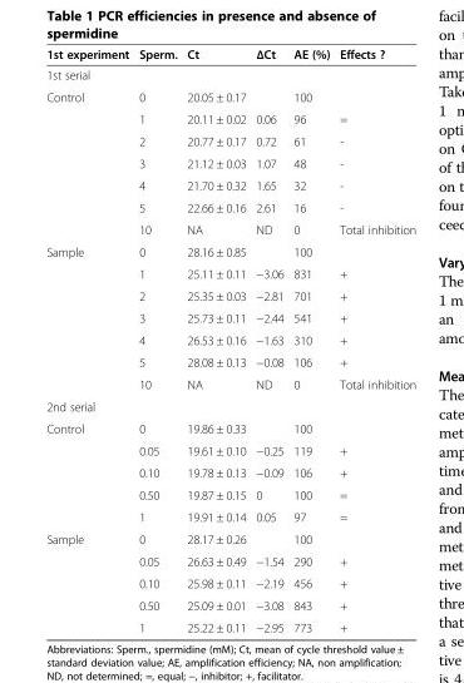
<table><thead><tr><td>1st experiment</td><td>Sperm.</td><td>Ct</td><td>ΔCt</td><td>AE (%)</td><td>Effects ?</td></tr></thead><tbody><tr><td colspan="6">1st serial</td></tr><tr><td rowspan="7">Control</td><td>0</td><td>20.05 ± 0.17</td><td></td><td>100</td><td></td></tr><tr><td>1</td><td>20.11 ± 0.02</td><td>0.06</td><td>96</td><td>=</td></tr><tr><td>2</td><td>20.77 ± 0.17</td><td>0.72</td><td>61</td><td>-</td></tr><tr><td>3</td><td>21.12 ± 0.03</td><td>1.07</td><td>48</td><td>-</td></tr><tr><td>4</td><td>21.70 ± 0.32</td><td>1.65</td><td>32</td><td>-</td></tr><tr><td>5</td><td>22.66 ± 0.16</td><td>2.61</td><td>16</td><td>-</td></tr><tr><td>10</td><td>NA</td><td>ND</td><td>0</td><td>Total inhibition</td></tr><tr><td rowspan="7">Sample</td><td>0</td><td>28.16 ± 0.85</td><td></td><td>100</td><td></td></tr><tr><td>1</td><td>25.11 ± 0.11</td><td>−3.06</td><td>831</td><td>+</td></tr><tr><td>2</td><td>25.35 ± 0.03</td><td>−2.81</td><td>701</td><td>+</td></tr><tr><td>3</td><td>25.73 ± 0.11</td><td>−2.44</td><td>541</td><td>+</td></tr><tr><td>4</td><td>26.53 ± 0.16</td><td>−1.63</td><td>310</td><td>+</td></tr><tr><td>5</td><td>28.08 ± 0.13</td><td>−0.08</td><td>106</td><td>+</td></tr><tr><td>10</td><td>NA</td><td>ND</td><td>0</td><td>Total inhibition</td></tr><tr><td colspan="6">2nd serial</td></tr><tr><td rowspan="5">Control</td><td>0</td><td>19.86 ± 0.33</td><td></td><td>100</td><td></td></tr><tr><td>0.05</td><td>19.61 ± 0.10</td><td>−0.25</td><td>119</td><td>+</td></tr><tr><td>0.10</td><td>19.78 ± 0.13</td><td>−0.09</td><td>106</td><td>+</td></tr><tr><td>0.50</td><td>19.87 ± 0.15</td><td>0</td><td>100</td><td>=</td></tr><tr><td>1</td><td>19.91 ± 0.14</td><td>0.05</td><td>97</td><td>=</td></tr><tr><td rowspan="5">Sample</td><td>0</td><td>28.17 ± 0.26</td><td></td><td>100</td><td></td></tr><tr><td>0.05</td><td>26.63 ± 0.49</td><td>−1.54</td><td>290</td><td>+</td></tr><tr><td>0.10</td><td>25.98 ± 0.11</td><td>−2.19</td><td>456</td><td>+</td></tr><tr><td>0.50</td><td>25.09 ± 0.01</td><td>−3.08</td><td>843</td><td>+</td></tr><tr><td>1</td><td>25.22 ± 0.11</td><td>−2.95</td><td>773</td><td>+</td></tr></tbody></table>